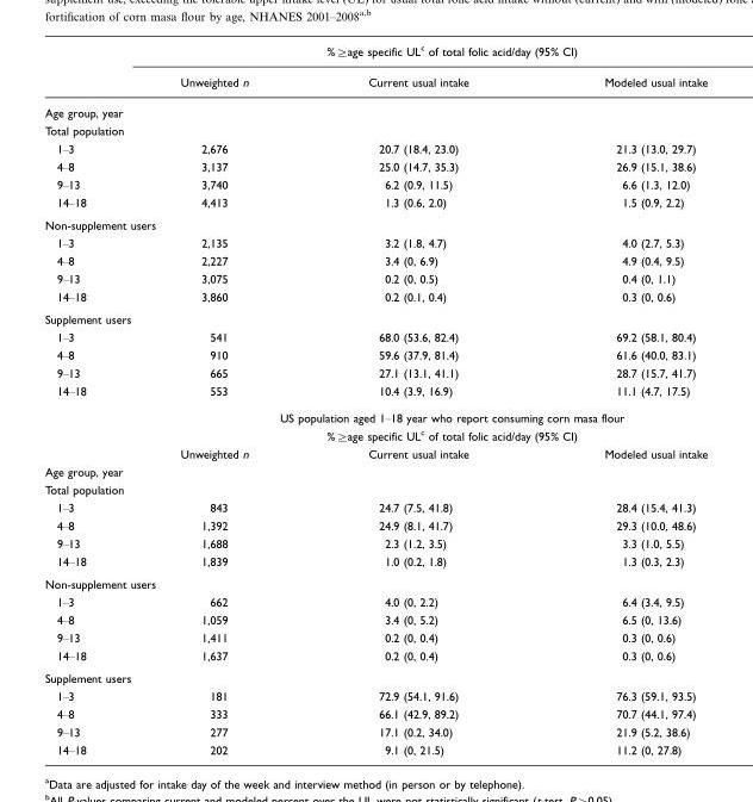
<table><thead><tr><td rowspan="2"></td><td colspan="3">%≥age specific UL<sup>c</sup> of total folic acid/day (95% CI)</td></tr><tr><td>Unweighted n</td><td>Current usual intake</td><td>Modeled usual intake</td></tr></thead><tbody><tr><td colspan="4">Age group, year</td></tr><tr><td colspan="4">Total population</td></tr><tr><td>1–3</td><td>2,676</td><td>20.7 (18.4, 23.0)</td><td>21.3 (13.0, 29.7)</td></tr><tr><td>4–8</td><td>3,137</td><td>25.0 (14.7, 35.3)</td><td>26.9 (15.1, 38.6)</td></tr><tr><td>9–13</td><td>3,740</td><td>6.2 (0.9, 11.5)</td><td>6.6 (1.3, 12.0)</td></tr><tr><td>14–18</td><td>4,413</td><td>1.3 (0.6, 2.0)</td><td>1.5 (0.9, 2.2)</td></tr><tr><td colspan="4">Non-supplement users</td></tr><tr><td>1–3</td><td>2,135</td><td>3.2 (1.8, 4.7)</td><td>4.0 (2.7, 5.3)</td></tr><tr><td>4–8</td><td>2,227</td><td>3.4 (0, 6.9)</td><td>4.9 (0.4, 9.5)</td></tr><tr><td>9–13</td><td>3,075</td><td>0.2 (0, 0.5)</td><td>0.4 (0, 1.1)</td></tr><tr><td>14–18</td><td>3,860</td><td>0.2 (0.1, 0.4)</td><td>0.3 (0, 0.6)</td></tr><tr><td colspan="4">Supplement users</td></tr><tr><td>1–3</td><td>541</td><td>68.0 (53.6, 82.4)</td><td>69.2 (58.1, 80.4)</td></tr><tr><td>4–8</td><td>910</td><td>59.6 (37.9, 81.4)</td><td>61.6 (40.0, 83.1)</td></tr><tr><td>9–13</td><td>665</td><td>27.1 (13.1, 41.1)</td><td>28.7 (15.7, 41.7)</td></tr><tr><td rowspan="4">14–18</td><td>553</td><td>10.4 (3.9, 16.9)</td><td>11.1 (4.7, 17.5)</td></tr><tr><td colspan="3">US population aged 1–18 year who report consuming corn masa flour</td></tr><tr><td colspan="3">%≥age specific UL<sup>c</sup> of total folic acid/day (95% CI)</td></tr><tr><td>Unweighted n</td><td>Current usual intake</td><td>Modeled usual intake</td></tr><tr><td colspan="4">Age group, year</td></tr><tr><td colspan="4">Total population</td></tr><tr><td>1–3</td><td>843</td><td>24.7 (7.5, 41.8)</td><td>28.4 (15.4, 41.3)</td></tr><tr><td>4–8</td><td>1,392</td><td>24.9 (8.1, 41.7)</td><td>29.3 (10.0, 48.6)</td></tr><tr><td>9–13</td><td>1,688</td><td>2.3 (1.2, 3.5)</td><td>3.3 (1.0, 5.5)</td></tr><tr><td>14–18</td><td>1,839</td><td>1.0 (0.2, 1.8)</td><td>1.3 (0.3, 2.3)</td></tr><tr><td colspan="4">Non-supplement users</td></tr><tr><td>1–3</td><td>662</td><td>4.0 (0, 2.2)</td><td>6.4 (3.4, 9.5)</td></tr><tr><td>4–8</td><td>1,059</td><td>3.4 (0, 5.2)</td><td>6.5 (0, 13.6)</td></tr><tr><td>9–13</td><td>1,411</td><td>0.2 (0, 0.4)</td><td>0.3 (0, 0.6)</td></tr><tr><td>14–18</td><td>1,637</td><td>0.2 (0, 0.4)</td><td>0.3 (0, 0.6)</td></tr><tr><td colspan="4">Supplement users</td></tr><tr><td>1–3</td><td>181</td><td>72.9 (54.1, 91.6)</td><td>76.3 (59.1, 93.5)</td></tr><tr><td>4–8</td><td>333</td><td>66.1 (42.9, 89.2)</td><td>70.7 (44.1, 97.4)</td></tr><tr><td>9–13</td><td>277</td><td>17.1 (0.2, 34.0)</td><td>21.9 (5.2, 38.6)</td></tr><tr><td>14–18</td><td>202</td><td>9.1 (0, 21.5)</td><td>11.2 (0, 27.8)</td></tr></tbody></table>